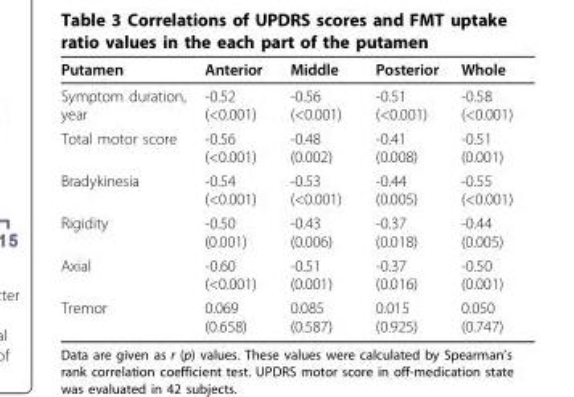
<table><thead><tr><td>Putamen</td><td>Anterior</td><td>Middle</td><td>Posterior</td><td>Whole</td></tr></thead><tbody><tr><td>Symptom duration, year</td><td>-0.52 (&lt;0.001)</td><td>-0.56 (&lt;0.001)</td><td>-0.51 (&lt;0.001)</td><td>-0.58 (&lt;0.001)</td></tr><tr><td>Total motor score</td><td>-0.56 (&lt;0.001)</td><td>-0.48 (0.002)</td><td>-0.41 (0.008)</td><td>-0.51 (0.001)</td></tr><tr><td>Bradykinesia</td><td>-0.54 (&lt;0.001)</td><td>-0.53 (&lt;0.001)</td><td>-0.44 (0.005)</td><td>-0.55 (&lt;0.001)</td></tr><tr><td>Rigidity</td><td>-0.50 (0.001)</td><td>-0.43 (0.006)</td><td>-0.37 (0.018)</td><td>-0.44 (0.005)</td></tr><tr><td>Axial</td><td>-0.60 (&lt;0.001)</td><td>-0.51 (0.001)</td><td>-0.37 (0.016)</td><td>-0.50 (0.001)</td></tr><tr><td>Tremor</td><td>0.069 (0.658)</td><td>0.085 (0.587)</td><td>0.015 (0.925)</td><td>0.050 (0.747)</td></tr></tbody></table>